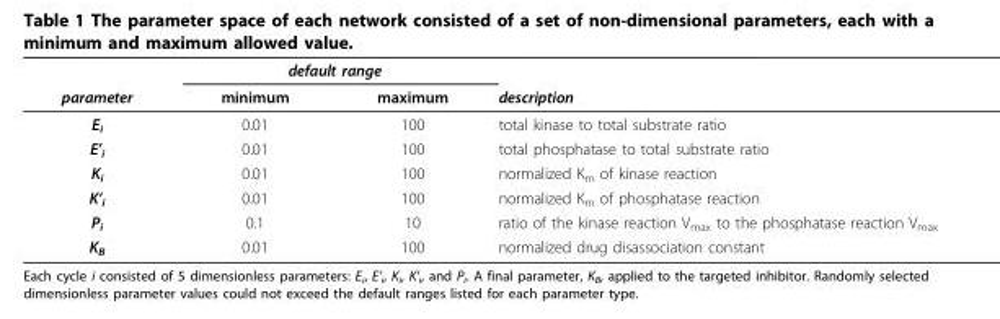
<table><thead><tr><td rowspan="2">parameter</td><td colspan="2">default range</td><td rowspan="2">description</td></tr><tr><td>minimum</td><td>maximum</td></tr></thead><tbody><tr><td>E<sub>i</sub></td><td>0.01</td><td>100</td><td>total kinase to total substrate ratio</td></tr><tr><td>E’<sub>i</sub></td><td>0.01</td><td>100</td><td>total phosphatase to total substrate ratio</td></tr><tr><td>K<sub>i</sub></td><td>0.01</td><td>100</td><td>normalized K<sub>m</sub> of kinase reaction</td></tr><tr><td>K’<sub>i</sub></td><td>0.01</td><td>100</td><td>normalized K<sub>m</sub> of phosphatase reaction</td></tr><tr><td>P<sub>i</sub></td><td>0.1</td><td>10</td><td>ratio of the kinase reaction V<sub>max</sub> to the phosphatase reaction V<sub>max</sub></td></tr><tr><td>K<sub>B</sub></td><td>0.01</td><td>100</td><td>normalized drug disassociation constant</td></tr></tbody></table>